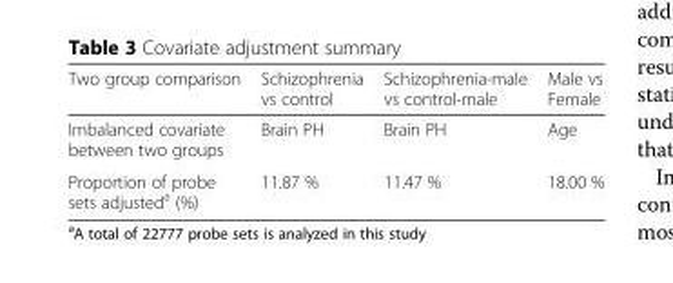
<table><thead><tr><td>Two group comparison</td><td>Schizophrenia vs control</td><td>Schizophrenia-male vs control-male</td><td>Male vs Female</td></tr></thead><tbody><tr><td>Imbalanced covariate between two groups</td><td>Brain PH</td><td>Brain PH</td><td>Age</td></tr><tr><td>Proportion of probe sets adjusted<sup>a</sup> (%)</td><td>11.87 %</td><td>11.47 %</td><td>18.00 %</td></tr></tbody></table>